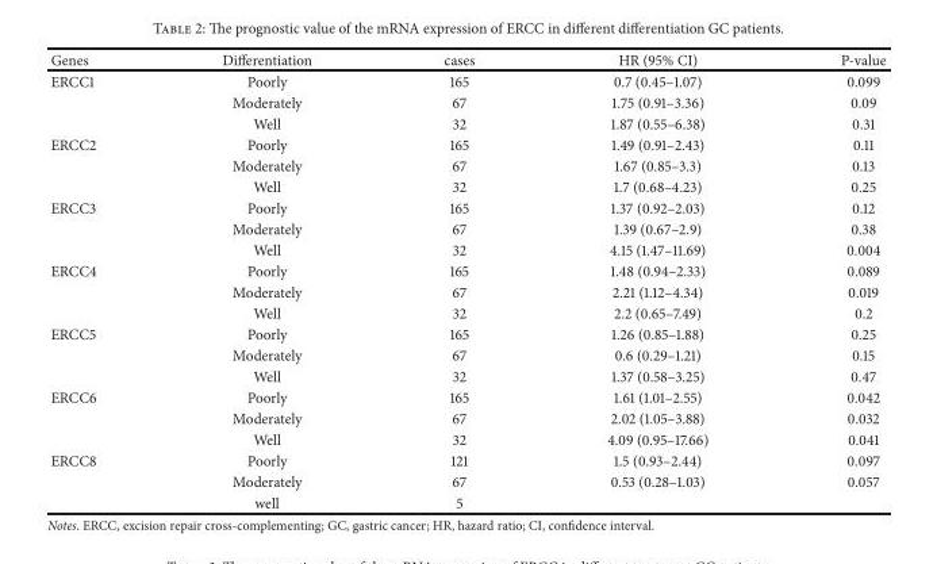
<table><thead><tr><td>Genes</td><td>Differentiation</td><td>cases</td><td>HR (95% CI)</td><td>P-value</td></tr></thead><tbody><tr><td rowspan="3">ERCC1</td><td>Poorly</td><td>165</td><td>0.7 (0.45–1.07)</td><td>0.099</td></tr><tr><td>Moderately</td><td>67</td><td>1.75 (0.91–3.36)</td><td>0.09</td></tr><tr><td>Well</td><td>32</td><td>1.87 (0.55–6.38)</td><td>0.31</td></tr><tr><td rowspan="3">ERCC2</td><td>Poorly</td><td>165</td><td>1.49 (0.91–2.43)</td><td>0.11</td></tr><tr><td>Moderately</td><td>67</td><td>1.67 (0.85–3.3)</td><td>0.13</td></tr><tr><td>Well</td><td>32</td><td>1.7 (0.68–4.23)</td><td>0.25</td></tr><tr><td rowspan="3">ERCC3</td><td>Poorly</td><td>165</td><td>1.37 (0.92–2.03)</td><td>0.12</td></tr><tr><td>Moderately</td><td>67</td><td>1.39 (0.67–2.9)</td><td>0.38</td></tr><tr><td>Well</td><td>32</td><td>4.15 (1.47–11.69)</td><td>0.004</td></tr><tr><td rowspan="3">ERCC4</td><td>Poorly</td><td>165</td><td>1.48 (0.94–2.33)</td><td>0.089</td></tr><tr><td>Moderately</td><td>67</td><td>2.21 (1.12–4.34)</td><td>0.019</td></tr><tr><td>Well</td><td>32</td><td>2.2 (0.65–7.49)</td><td>0.2</td></tr><tr><td rowspan="3">ERCC5</td><td>Poorly</td><td>165</td><td>1.26 (0.85–1.88)</td><td>0.25</td></tr><tr><td>Moderately</td><td>67</td><td>0.6 (0.29–1.21)</td><td>0.15</td></tr><tr><td>Well</td><td>32</td><td>1.37 (0.58–3.25)</td><td>0.47</td></tr><tr><td rowspan="3">ERCC6</td><td>Poorly</td><td>165</td><td>1.61 (1.01–2.55)</td><td>0.042</td></tr><tr><td>Moderately</td><td>67</td><td>2.02 (1.05–3.88)</td><td>0.032</td></tr><tr><td>Well</td><td>32</td><td>4.09 (0.95–17.66)</td><td>0.041</td></tr><tr><td rowspan="3">ERCC8</td><td>Poorly</td><td>121</td><td>1.5 (0.93–2.44)</td><td>0.097</td></tr><tr><td>Moderately</td><td>67</td><td>0.53 (0.28–1.03)</td><td>0.057</td></tr><tr><td>well</td><td>5</td><td></td><td></td></tr></tbody></table>